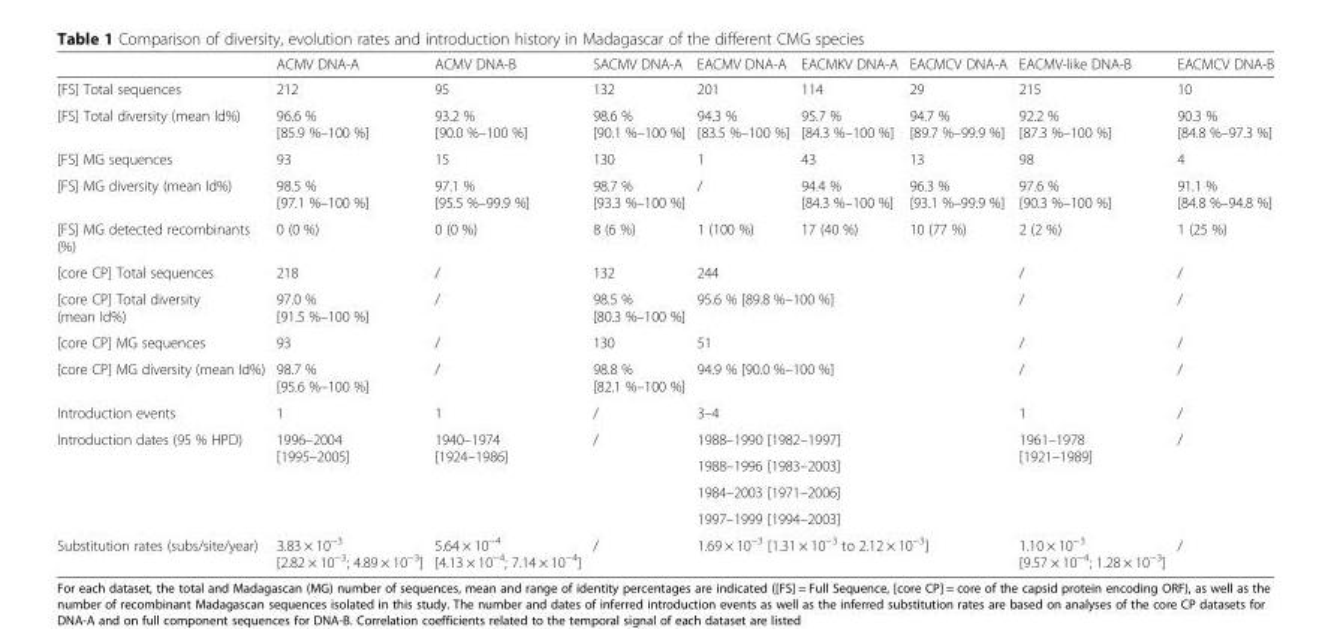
<table><thead><tr><td></td><td>ACMV DNA-A</td><td>ACMV DNA-B</td><td>SACMV DNA-A</td><td>EACMV DNA-A</td><td>EACMKV DNA-A</td><td>EACMCV DNA-A</td><td>EACMV-like DNA-B</td><td>EACMCV DNA-B</td></tr></thead><tbody><tr><td>[FS] Total sequences</td><td>212</td><td>95</td><td>132</td><td>201</td><td>114</td><td>29</td><td>215</td><td>10</td></tr><tr><td>[FS] Total diversity (mean Id%)</td><td>96.6 % [85.9 %–100 %]</td><td>93.2 % [90.0 %–100 %]</td><td>98.6 % [90.1 %–100 %]</td><td>94.3 % [83.5 %–100 %]</td><td>95.7 % [84.3 %–100 %]</td><td>94.7 % [89.7 %–99.9 %]</td><td>92.2 % [87.3 %–100 %]</td><td>90.3 % [84.8 %–97.3 %]</td></tr><tr><td>[FS] MG sequences</td><td>93</td><td>15</td><td>130</td><td>1</td><td>43</td><td>13</td><td>98</td><td>4</td></tr><tr><td>[FS] MG diversity (mean Id%)</td><td>98.5 % [97.1 %–100 %]</td><td>97.1 % [95.5 %–99.9 %]</td><td>98.7 % [93.3 %–100 %]</td><td>/</td><td>94.4 % [84.3 %–100 %]</td><td>96.3 % [93.1 %–99.9 %]</td><td>97.6 % [90.3 %–100 %]</td><td>91.1 % [84.8 %–94.8 %]</td></tr><tr><td>[FS] MG detected recombinants (%)</td><td>0 (0 %)</td><td>0 (0 %)</td><td>8 (6 %)</td><td>1 (100 %)</td><td>17 (40 %)</td><td>10 (77 %)</td><td>2 (2 %)</td><td>1 (25 %)</td></tr><tr><td>[core CP] Total sequences</td><td>218</td><td>/</td><td>132</td><td colspan="3">244</td><td>/</td><td>/</td></tr><tr><td>[core CP] Total diversity (mean Id%)</td><td>97.0 % [91.5 %–100 %]</td><td>/</td><td>98.5 % [80.3 %–100 %]</td><td colspan="3">95.6 % [89.8 %–100 %]</td><td>/</td><td>/</td></tr><tr><td>[core CP] MG sequences</td><td>93</td><td>/</td><td>130</td><td colspan="3">51</td><td>/</td><td>/</td></tr><tr><td>[core CP] MG diversity (mean Id%)</td><td>98.7 % [95.6 %–100 %]</td><td>/</td><td>98.8 % [82.1 %–100 %]</td><td colspan="3">94.9 % [90.0 %–100 %]</td><td>/</td><td>/</td></tr><tr><td>Introduction events</td><td>1</td><td>1</td><td>/</td><td colspan="3">3–4</td><td>1</td><td>/</td></tr><tr><td rowspan="4">Introduction dates (95 % HPD)</td><td rowspan="4">1996–2004 [1995–2005]</td><td rowspan="4">1940–1974 [1924–1986]</td><td rowspan="4">/</td><td colspan="3">1988–1990 [1982–1997]</td><td rowspan="4">1961–1978 [1921–1989]</td><td rowspan="4">/</td></tr><tr><td colspan="3">1988–1996 [1983–2003]</td></tr><tr><td colspan="3">1984–2003 [1971–2006]</td></tr><tr><td colspan="3">1997–1999 [1994–2003]</td></tr><tr><td>Substitution rates (subs/site/year)</td><td>3.83 × 10<sup>−3</sup> [2.82 × 10<sup>−3</sup>; 4.89 × 10<sup>−3</sup>]</td><td>5.64 × 10<sup>−4</sup> [4.13 × 10<sup>−4</sup>; 7.14 × 10<sup>−4</sup>]</td><td>/</td><td colspan="3">1.69 × 10<sup>−3</sup> [1.31 × 10<sup>−3</sup> to 2.12 × 10<sup>−3</sup>]</td><td>1.10 × 10<sup>−3</sup> [9.57 × 10<sup>−4</sup>; 1.28 × 10<sup>−3</sup>]</td><td>/</td></tr></tbody></table>